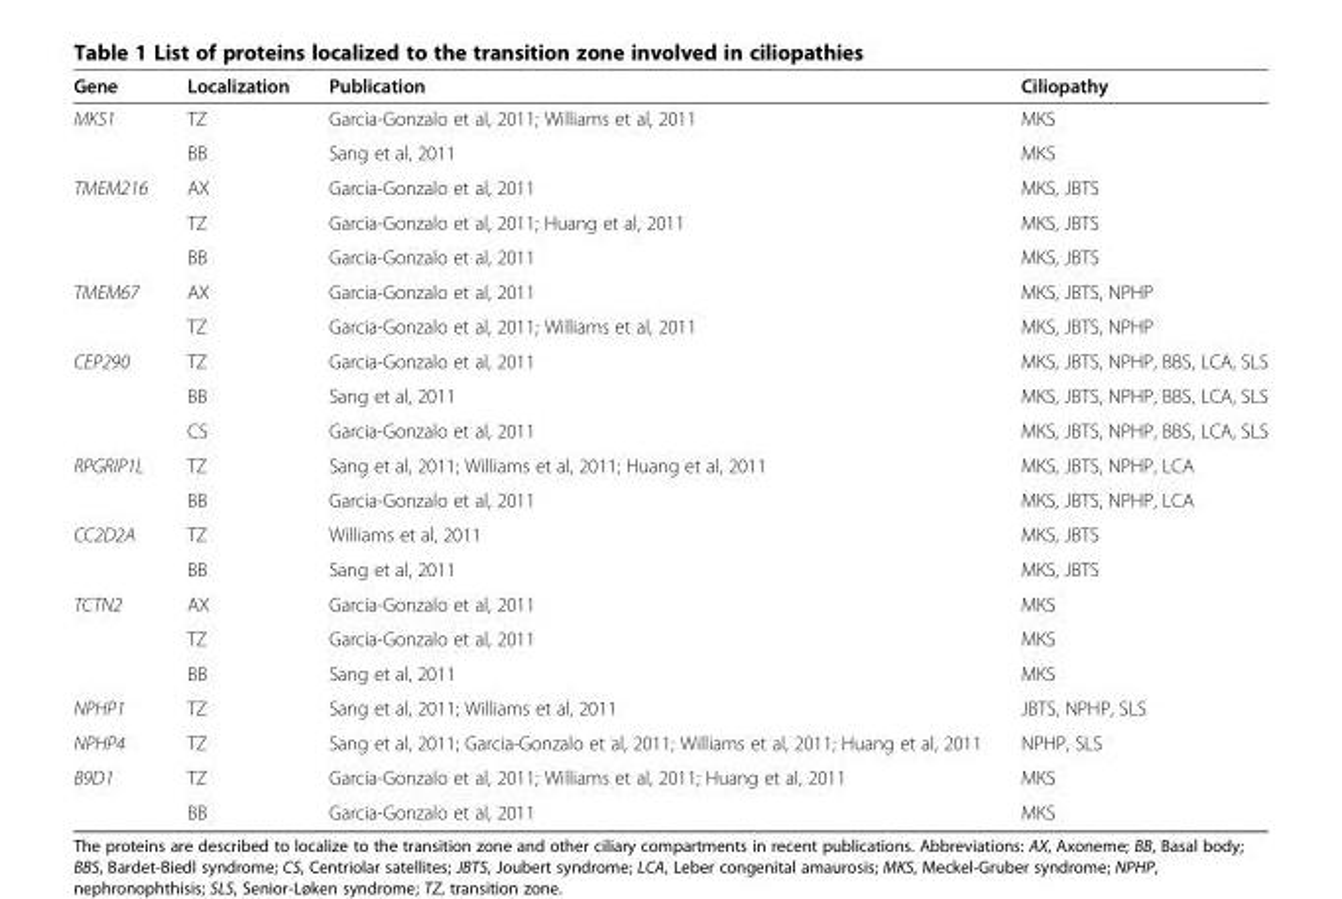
<table><thead><tr><td>Gene</td><td>Localization</td><td>Publication</td><td>Ciliopathy</td></tr></thead><tbody><tr><td rowspan="2">MKS1</td><td>TZ</td><td>Garcia-Gonzalo et al, 2011; Williams et al, 2011</td><td>MKS</td></tr><tr><td>BB</td><td>Sang et al, 2011</td><td>MKS</td></tr><tr><td rowspan="3">TMEM216</td><td>AX</td><td>Garcia-Gonzalo et al, 2011</td><td>MKS, JBTS</td></tr><tr><td>TZ</td><td>Garcia-Gonzalo et al, 2011; Huang et al, 2011</td><td>MKS, JBTS</td></tr><tr><td>BB</td><td>Garcia-Gonzalo et al, 2011</td><td>MKS, JBTS</td></tr><tr><td rowspan="2">TMEM67</td><td>AX</td><td>Garcia-Gonzalo et al, 2011</td><td>MKS, JBTS, NPHP</td></tr><tr><td>TZ</td><td>Garcia-Gonzalo et al, 2011; Williams et al, 2011</td><td>MKS, JBTS, NPHP</td></tr><tr><td rowspan="3">CEP290</td><td>TZ</td><td>Garcia-Gonzalo et al, 2011</td><td>MKS, JBTS, NPHP, BBS, LCA, SLS</td></tr><tr><td>BB</td><td>Sang et al, 2011</td><td>MKS, JBTS, NPHP, BBS, LCA, SLS</td></tr><tr><td>CS</td><td>Garcia-Gonzalo et al, 2011</td><td>MKS, JBTS, NPHP, BBS, LCA, SLS</td></tr><tr><td rowspan="2">RPGRIP1L</td><td>TZ</td><td>Sang et al, 2011; Williams et al, 2011; Huang et al, 2011</td><td>MKS, JBTS, NPHP, LCA</td></tr><tr><td>BB</td><td>Garcia-Gonzalo et al, 2011</td><td>MKS, JBTS, NPHP, LCA</td></tr><tr><td rowspan="2">CC2D2A</td><td>TZ</td><td>Williams et al, 2011</td><td>MKS, JBTS</td></tr><tr><td>BB</td><td>Sang et al, 2011</td><td>MKS, JBTS</td></tr><tr><td rowspan="3">TCTN2</td><td>AX</td><td>Garcia-Gonzalo et al, 2011</td><td>MKS</td></tr><tr><td>TZ</td><td>Garcia-Gonzalo et al, 2011</td><td>MKS</td></tr><tr><td>BB</td><td>Sang et al, 2011</td><td>MKS</td></tr><tr><td>NPHP1</td><td>TZ</td><td>Sang et al, 2011; Williams et al, 2011</td><td>JBTS, NPHP, SLS</td></tr><tr><td>NPHP4</td><td>TZ</td><td>Sang et al, 2011; Garcia-Gonzalo et al, 2011; Williams et al, 2011; Huang et al, 2011</td><td>NPHP, SLS</td></tr><tr><td rowspan="2">B9D1</td><td>TZ</td><td>Garcia-Gonzalo et al, 2011; Williams et al, 2011; Huang et al, 2011</td><td>MKS</td></tr><tr><td>BB</td><td>Garcia-Gonzalo et al, 2011</td><td>MKS</td></tr></tbody></table>